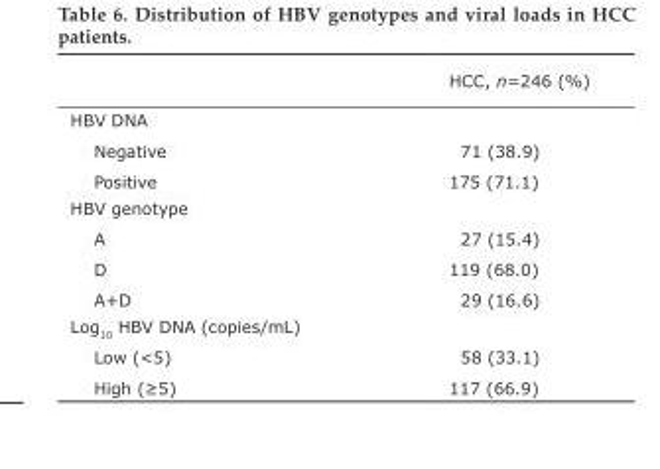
<table><thead><tr><td></td><td>HCC, n=246 (%)</td></tr></thead><tbody><tr><td colspan="2">HBV DNA</td></tr><tr><td>Negative</td><td>71 (38.9)</td></tr><tr><td>Positive</td><td>175 (71.1)</td></tr><tr><td colspan="2">HBV genotype</td></tr><tr><td>A</td><td>27 (15.4)</td></tr><tr><td>D</td><td>119 (68.0)</td></tr><tr><td>A+D</td><td>29 (16.6)</td></tr><tr><td colspan="2">Log<sub>10</sub> HBV DNA (copies/mL)</td></tr><tr><td>Low (&lt;5)</td><td>58 (33.1)</td></tr><tr><td>High (≥5)</td><td>117 (66.9)</td></tr></tbody></table>